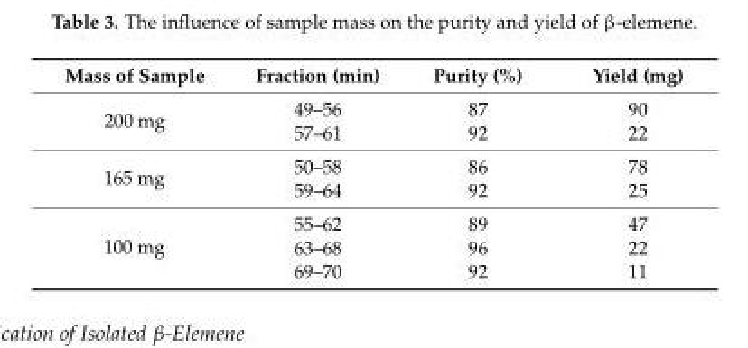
<table><thead><tr><td>Mass of Sample</td><td>Fraction (min)</td><td>Purity (%)</td><td>Yield (mg)</td></tr></thead><tbody><tr><td rowspan="2">200 mg</td><td>49–56</td><td>87</td><td>90</td></tr><tr><td>57–61</td><td>92</td><td>22</td></tr><tr><td rowspan="2">165 mg</td><td>50–58</td><td>86</td><td>78</td></tr><tr><td>59–64</td><td>92</td><td>25</td></tr><tr><td rowspan="3">100 mg</td><td>55–62</td><td>89</td><td>47</td></tr><tr><td>63–68</td><td>96</td><td>22</td></tr><tr><td>69–70</td><td>92</td><td>11</td></tr></tbody></table>